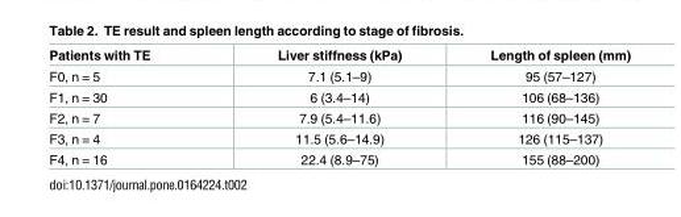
<table><thead><tr><td>Patients with TE</td><td>Liver stiffness (kPa)</td><td>Length of spleen (mm)</td></tr></thead><tbody><tr><td>F0, n = 5</td><td>7.1 (5.1–9)</td><td>95 (57–127)</td></tr><tr><td>F1, n = 30</td><td>6 (3.4–14)</td><td>106 (68–136)</td></tr><tr><td>F2, n = 7</td><td>7.9 (5.4–11.6)</td><td>116 (90–145)</td></tr><tr><td>F3, n = 4</td><td>11.5 (5.6–14.9)</td><td>126 (115–137)</td></tr><tr><td>F4, n = 16</td><td>22.4 (8.9–75)</td><td>155 (88–200)</td></tr></tbody></table>